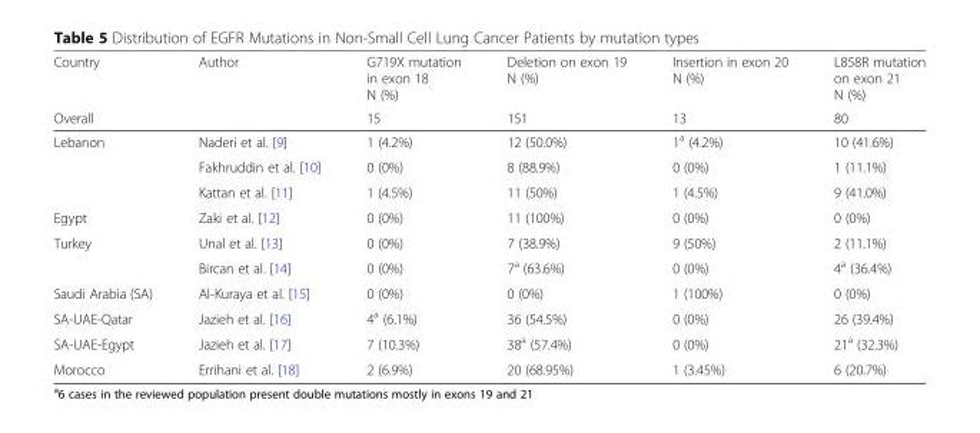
<table><thead><tr><td rowspan="2">Country Overall</td><td rowspan="2">Author</td><td rowspan="2">G719X mutation in exon 18 N (%) 15</td><td rowspan="2">Deletion on exon 19 N (%) 151</td><td rowspan="2">Insertion in exon 20 N (%) 13</td><td rowspan="2">L858R mutation on exon 21 N (%) 80</td></tr><tr></tr></thead><tbody><tr><td rowspan="3">Lebanon</td><td>Naderi et al. [9]</td><td>1 (4.2%)</td><td>12 (50.0%)</td><td>1<sup>a</sup> (4.2%)</td><td>10 (41.6%)</td></tr><tr><td>Fakhruddin et al. [10]</td><td>0 (0%)</td><td>8 (88.9%)</td><td>0 (0%)</td><td>1 (11.1%)</td></tr><tr><td>Kattan et al. [11]</td><td>1 (4.5%)</td><td>11 (50%)</td><td>1 (4.5%)</td><td>9 (41.0%)</td></tr><tr><td>Egypt</td><td>Zaki et al. [12]</td><td>0 (0%)</td><td>11 (100%)</td><td>0 (0%)</td><td>0 (0%)</td></tr><tr><td rowspan="2">Turkey</td><td>Unal et al. [13]</td><td>0 (0%)</td><td>7 (38.9%)</td><td>9 (50%)</td><td>2 (11.1%)</td></tr><tr><td>Bircan et al. [14]</td><td>0 (0%)</td><td>7<sup>a</sup> (63.6%)</td><td>0 (0%)</td><td>4<sup>a</sup> (36.4%)</td></tr><tr><td>Saudi Arabia (SA)</td><td>Al-Kuraya et al. [15]</td><td>0 (0%)</td><td>0 (0%)</td><td>1 (100%)</td><td>0 (0%)</td></tr><tr><td>SA-UAE-Qatar</td><td>Jazieh et al. [16]</td><td>4<sup>a</sup> (6.1%)</td><td>36 (54.5%)</td><td>0 (0%)</td><td>26 (39.4%)</td></tr><tr><td>SA-UAE-Egypt</td><td>Jazieh et al. [17]</td><td>7 (10.3%)</td><td>38<sup>a</sup> (57.4%)</td><td>0 (0%)</td><td>21<sup>a</sup> (32.3%)</td></tr><tr><td>Morocco</td><td>Errihani et al. [18]</td><td>2 (6.9%)</td><td>20 (68.95%)</td><td>1 (3.45%)</td><td>6 (20.7%)</td></tr></tbody></table>